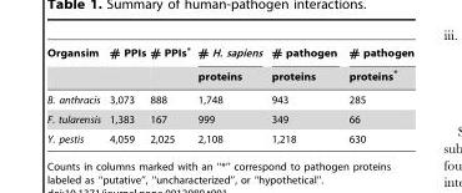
<table><thead><tr><td rowspan="2">Organsim</td><td rowspan="2"># PPIs</td><td rowspan="2"># PPIs*</td><td rowspan="2"># H. sapiens proteins</td><td rowspan="2"># pathogen proteins</td><td rowspan="2"># pathogen proteins*</td></tr><tr></tr></thead><tbody><tr><td>B. anthracis</td><td>3,073</td><td>888</td><td>1,748</td><td>943</td><td>285</td></tr><tr><td>F. tularensis</td><td>1,383</td><td>167</td><td>999</td><td>349</td><td>66</td></tr><tr><td>Y. pestis</td><td>4,059</td><td>2,025</td><td>2,108</td><td>1,218</td><td>630</td></tr></tbody></table>